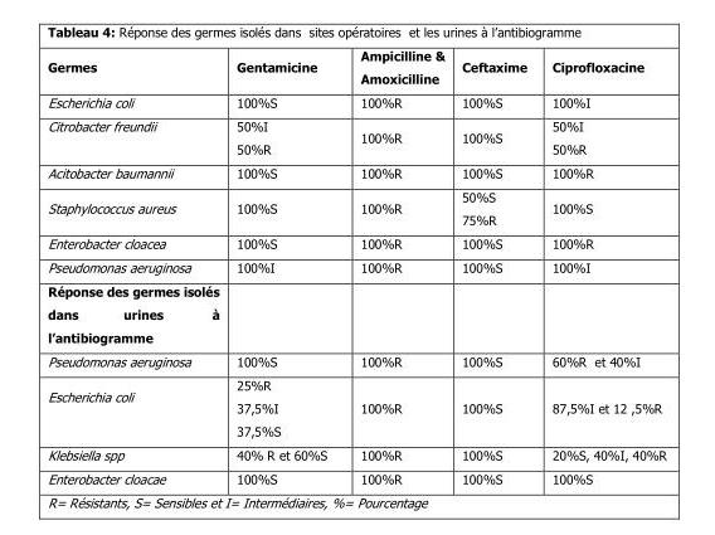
<table><thead><tr><td>Germes</td><td>Gentamicine</td><td>Ampicilline &amp; Amoxicilline</td><td>Ceftaxime</td><td>Ciprofloxacine</td></tr></thead><tbody><tr><td>Escherichia coli</td><td>100%S</td><td>100%R</td><td>100%S</td><td>100%I</td></tr><tr><td>Citrobacter freundii</td><td>50%I 50%R</td><td>100%R</td><td>100%S</td><td>50%I 50%R</td></tr><tr><td>Acitobacter baumannii</td><td>100%S</td><td>100%R</td><td>100%S</td><td>100%R</td></tr><tr><td>Staphylococcus aureus</td><td>100%S</td><td>100%R</td><td>50%S 75%R</td><td>100%S</td></tr><tr><td>Enterobacter cloacea</td><td>100%S</td><td>100%R</td><td>100%S</td><td>100%R</td></tr><tr><td>Pseudomonas aeruginosa</td><td>100%I</td><td>100%R</td><td>100%S</td><td>100%I</td></tr><tr><td colspan="5">Réponse des germes isolés dans urines à l’antibiogramme</td></tr><tr><td>Pseudomonas aeruginosa</td><td>100%S</td><td>100%R</td><td>100%S</td><td>60%R et 40%I</td></tr><tr><td>Escherichia coli</td><td>25%R 37,5%I 37,5%S</td><td>100%R</td><td>100%S</td><td>87,5%I et 12 ,5%R</td></tr><tr><td>Klebsiella spp</td><td>40% R et 60%S</td><td>100%R</td><td>100%S</td><td>20%S, 40%I, 40%R</td></tr><tr><td>Enterobacter cloacae</td><td>100%S</td><td>100%R</td><td>100%S</td><td>100%S</td></tr></tbody></table>